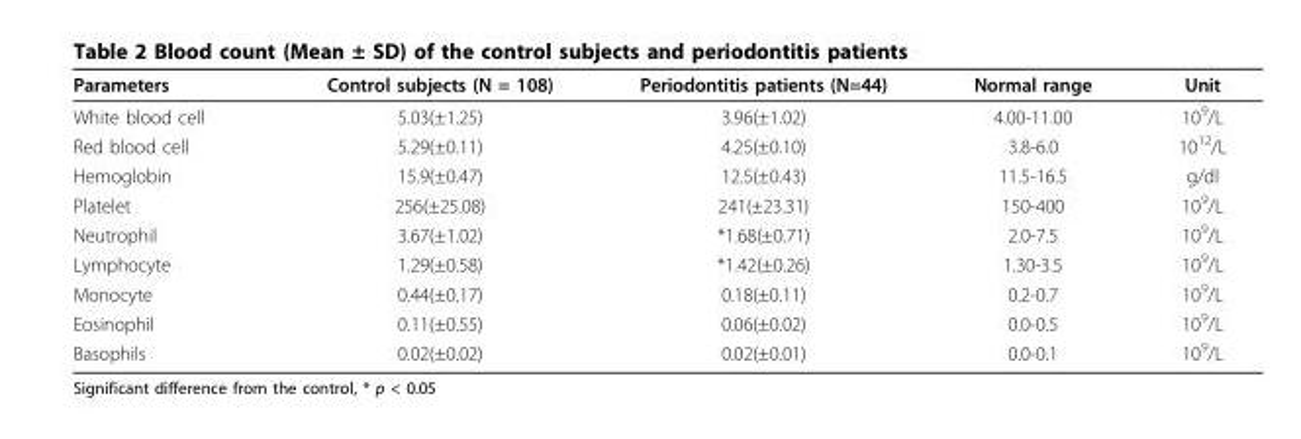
<table><thead><tr><td>Parameters</td><td>Control subjects (N = 108)</td><td>Periodontitis patients (N=44)</td><td>Normal range</td><td>Unit</td></tr></thead><tbody><tr><td>White blood cell</td><td>5.03(±1.25)</td><td>3.96(±1.02)</td><td>4.00-11.00</td><td>10<sup>9</sup>/L</td></tr><tr><td>Red blood cell</td><td>5.29(±0.11)</td><td>4.25(±0.10)</td><td>3.8-6.0</td><td>10<sup>12</sup>/L</td></tr><tr><td>Hemoglobin</td><td>15.9(±0.47)</td><td>12.5(±0.43)</td><td>11.5-16.5</td><td>g/dl</td></tr><tr><td>Platelet</td><td>256(±25.08)</td><td>241(±23.31)</td><td>150-400</td><td>10<sup>9</sup>/L</td></tr><tr><td>Neutrophil</td><td>3.67(±1.02)</td><td>*1.68(±0.71)</td><td>2.0-7.5</td><td>10<sup>9</sup>/L</td></tr><tr><td>Lymphocyte</td><td>1.29(±0.58)</td><td>*1.42(±0.26)</td><td>1.30-3.5</td><td>10<sup>9</sup>/L</td></tr><tr><td>Monocyte</td><td>0.44(±0.17)</td><td>0.18(±0.11)</td><td>0.2-0.7</td><td>10<sup>9</sup>/L</td></tr><tr><td>Eosinophil</td><td>0.11(±0.55)</td><td>0.06(±0.02)</td><td>0.0-0.5</td><td>10<sup>9</sup>/L</td></tr><tr><td>Basophils</td><td>0.02(±0.02)</td><td>0.02(±0.01)</td><td>0.0-0.1</td><td>10<sup>9</sup>/L</td></tr></tbody></table>